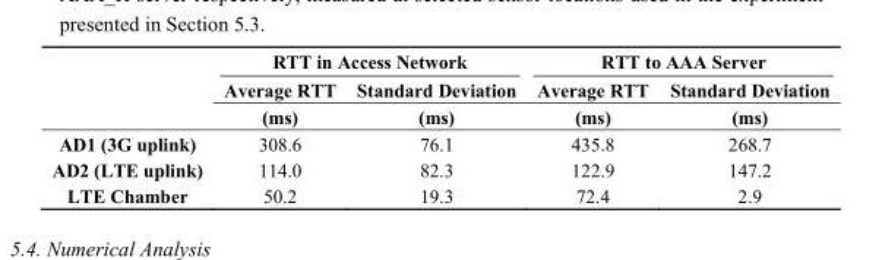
<table><thead><tr><td rowspan="3"></td><td colspan="2">RTT in Access Network</td><td colspan="2">RTT to AAA Server</td></tr><tr><td rowspan="2">Average RTT (ms)</td><td rowspan="2">Standard Deviation (ms)</td><td rowspan="2">Average RTT (ms)</td><td rowspan="2">Standard Deviation (ms)</td></tr><tr></tr></thead><tbody><tr><td>AD1 (3G uplink)</td><td>308.6</td><td>76.1</td><td>435.8</td><td>268.7</td></tr><tr><td>AD2 (LTE uplink)</td><td>114.0</td><td>82.3</td><td>122.9</td><td>147.2</td></tr><tr><td>LTE Chamber</td><td>50.2</td><td>19.3</td><td>72.4</td><td>2.9</td></tr></tbody></table>